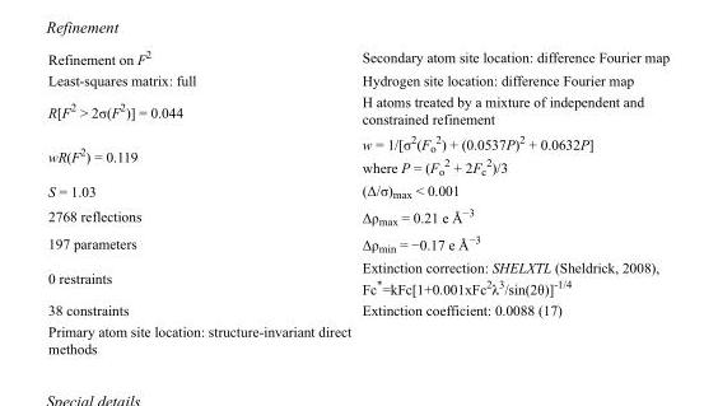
<table><tbody><tr><td>Refinement on F<sup>2</sup></td><td>Secondary atom site location: difference Fourier map</td></tr><tr><td>Least-squares matrix: full</td><td>Hydrogen site location: difference Fourier map</td></tr><tr><td>R[F<sup>2</sup> &gt; 2σ(F<sup>2</sup>)] = 0.044</td><td>H atoms treated by a mixture of independent and constrained refinement</td></tr><tr><td>wR(F<sup>2</sup>) = 0.119</td><td>w = 1/[σ<sup>2</sup>(F<sub>o</sub> <sup>2</sup>) + (0.0537P)<sup>2</sup> + 0.0632P] where P = (F<sub>o</sub> <sup>2</sup> + 2F<sub>c</sub> <sup>2</sup>)/3</td></tr><tr><td>S = 1.03</td><td>(Δ/σ)<sub>max</sub> &lt; 0.001</td></tr><tr><td>2768 reflections</td><td>Δρ<sub>max</sub> = 0.21 e Å<sup>−3</sup></td></tr><tr><td>197 parameters</td><td>Δρ<sub>min</sub> = −0.17 e Å<sup>−3</sup></td></tr><tr><td>0 restraints</td><td>Extinction correction: SHELXTL (Sheldrick, 2008), Fc*=kFc[1+0.001xFc<sup>2</sup>λ<sup>3</sup>/sin(2θ)]<sup>-1/4</sup></td></tr><tr><td>38 constraints</td><td>Extinction coefficient: 0.0088 (17)</td></tr><tr><td>Primary atom site location: structure-invariant direct methods</td><td></td></tr></tbody></table>